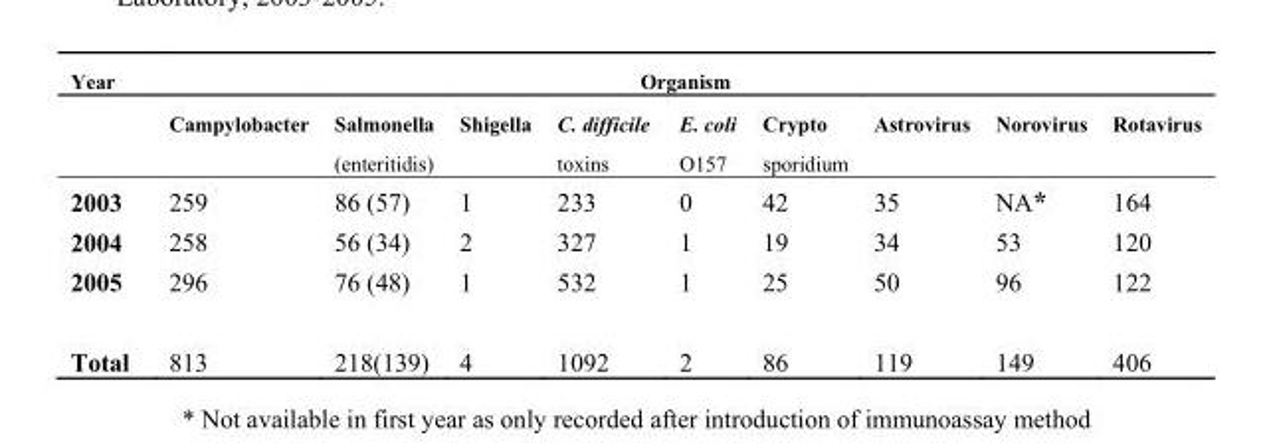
<table><thead><tr><td rowspan="2">Year</td><td colspan="9">Organism</td></tr><tr><td>Campylobacter</td><td>Salmonella (enteritidis)</td><td>Shigella</td><td>C. difficile toxins</td><td>E. coli O157</td><td>Crypto sporidium</td><td>Astrovirus</td><td>Norovirus</td><td>Rotavirus</td></tr></thead><tbody><tr><td>2003</td><td>259</td><td>86 (57)</td><td>1</td><td>233</td><td>0</td><td>42</td><td>35</td><td>NA*</td><td>164</td></tr><tr><td>2004</td><td>258</td><td>56 (34)</td><td>2</td><td>327</td><td>1</td><td>19</td><td>34</td><td>53</td><td>120</td></tr><tr><td>2005</td><td>296</td><td>76 (48)</td><td>1</td><td>532</td><td>1</td><td>25</td><td>50</td><td>96</td><td>122</td></tr><tr><td>Total</td><td>813</td><td>218(139)</td><td>4</td><td>1092</td><td>2</td><td>86</td><td>119</td><td>149</td><td>406</td></tr></tbody></table>